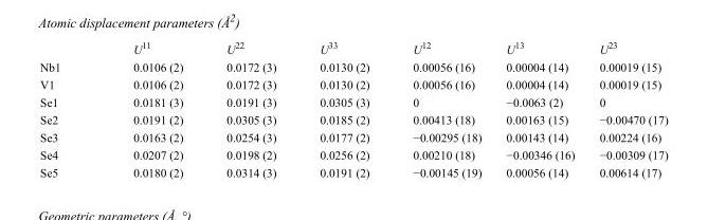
<table><thead><tr><td></td><td>U<sup>11</sup></td><td>U<sup>22</sup></td><td>U<sup>33</sup></td><td>U<sup>12</sup></td><td>U<sup>13</sup></td><td>U<sup>23</sup></td></tr></thead><tbody><tr><td>Nb1</td><td>0.0106 (2)</td><td>0.0172 (3)</td><td>0.0130 (2)</td><td>0.00056 (16)</td><td>0.00004 (14)</td><td>0.00019 (15)</td></tr><tr><td>V1</td><td>0.0106 (2)</td><td>0.0172 (3)</td><td>0.0130 (2)</td><td>0.00056 (16)</td><td>0.00004 (14)</td><td>0.00019 (15)</td></tr><tr><td>Se1</td><td>0.0181 (3)</td><td>0.0191 (3)</td><td>0.0305 (3)</td><td>0</td><td>−0.0063 (2)</td><td>0</td></tr><tr><td>Se2</td><td>0.0191 (2)</td><td>0.0305 (3)</td><td>0.0185 (2)</td><td>0.00413 (18)</td><td>0.00163 (15)</td><td>−0.00470 (17)</td></tr><tr><td>Se3</td><td>0.0163 (2)</td><td>0.0254 (3)</td><td>0.0177 (2)</td><td>−0.00295 (18)</td><td>0.00143 (14)</td><td>0.00224 (16)</td></tr><tr><td>Se4</td><td>0.0207 (2)</td><td>0.0198 (2)</td><td>0.0256 (2)</td><td>0.00210 (18)</td><td>−0.00346 (16)</td><td>−0.00309 (17)</td></tr><tr><td>Se5</td><td>0.0180 (2)</td><td>0.0314 (3)</td><td>0.0191 (2)</td><td>−0.00145 (19)</td><td>0.00056 (14)</td><td>0.00614 (17)</td></tr></tbody></table>